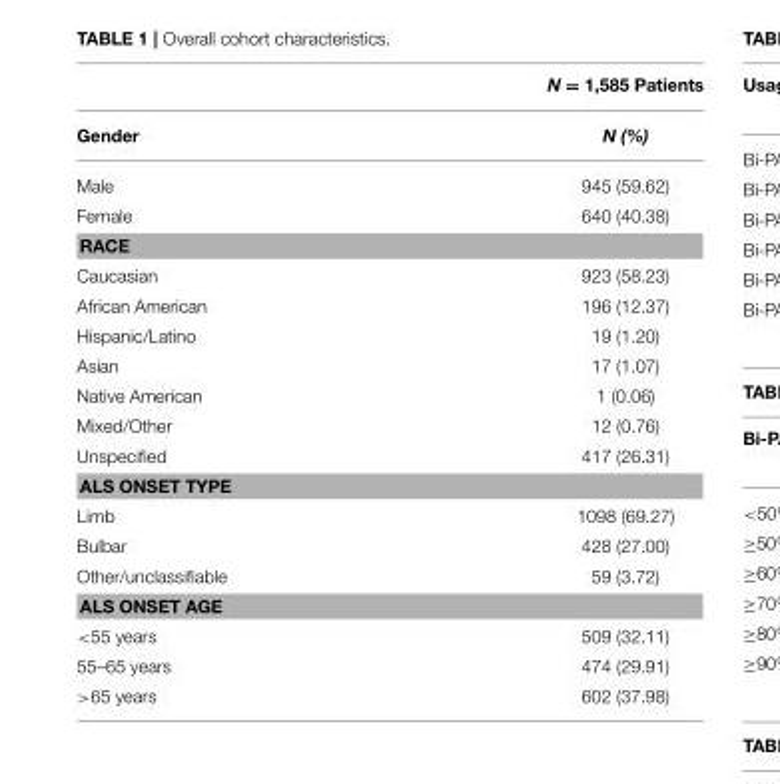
<table><thead><tr><td></td><td>N = 1,585 Patients</td></tr></thead><tbody><tr><td>Gender</td><td>N (%)</td></tr><tr><td>Male</td><td>945 (59.62)</td></tr><tr><td>Female</td><td>640 (40.38)</td></tr><tr><td colspan="2">RACE</td></tr><tr><td>Caucasian</td><td>923 (58.23)</td></tr><tr><td>African American</td><td>196 (12.37)</td></tr><tr><td>Hispanic/Latino</td><td>19 (1.20)</td></tr><tr><td>Asian</td><td>17 (1.07)</td></tr><tr><td>Native American</td><td>1 (0.06)</td></tr><tr><td>Mixed/Other</td><td>12 (0.76)</td></tr><tr><td>Unspecified</td><td>417 (26.31)</td></tr><tr><td colspan="2">ALS ONSET TYPE</td></tr><tr><td>Limb</td><td>1098 (69.27)</td></tr><tr><td>Bulbar</td><td>428 (27.00)</td></tr><tr><td>Other/unclassifiable</td><td>59 (3.72)</td></tr><tr><td colspan="2">ALS ONSET AGE</td></tr><tr><td>&lt;55 years</td><td>509 (32.11)</td></tr><tr><td>55–65 years</td><td>474 (29.91)</td></tr><tr><td>&gt;65 years</td><td>602 (37.98)</td></tr></tbody></table>